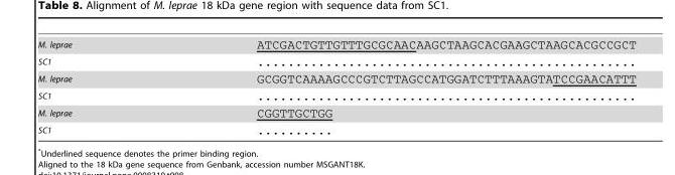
<table><tbody><tr><td>M. leprae</td><td>ATCGACTGTTGTTTGCGCAACAAGCTAAGCACGAAGCTAAGCACGCCGCT</td></tr><tr><td>SC1</td><td>..................................................</td></tr><tr><td>M. leprae</td><td>GCGGTCAAAAGCCCGTCTTAGCCATGGATCTTTAAAGTATCCGAACATTT</td></tr><tr><td>SC1</td><td>..................................................</td></tr><tr><td>M. leprae</td><td>CGGTTGCTGG</td></tr><tr><td>SC1</td><td>..........</td></tr></tbody></table>